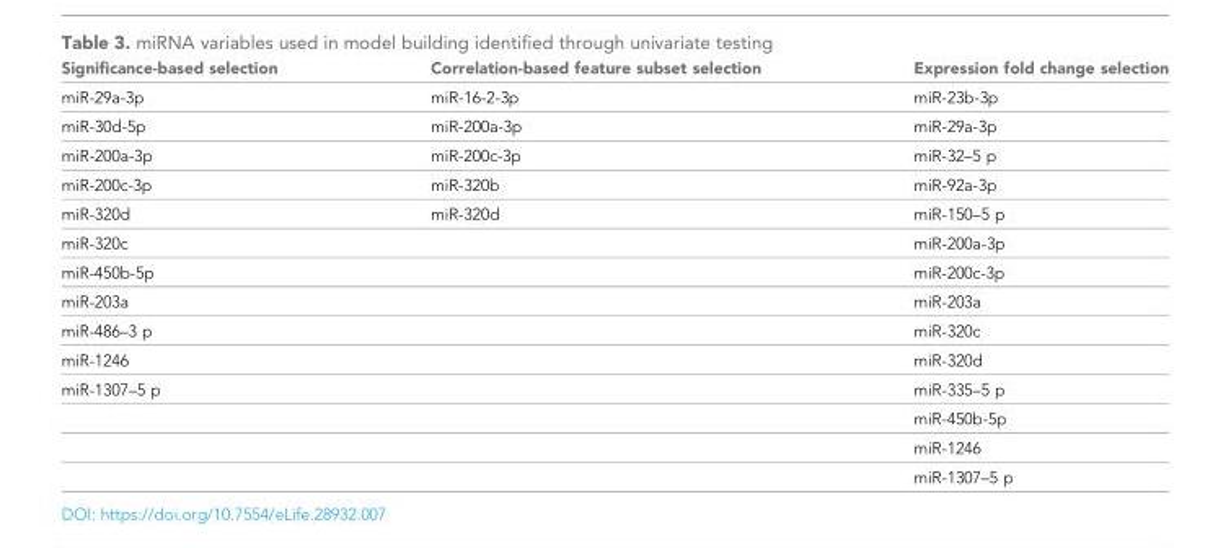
<table><thead><tr><td>Significance-based selection</td><td>Correlation-based feature subset selection</td><td>Expression fold change selection</td></tr></thead><tbody><tr><td>miR-29a-3p</td><td>miR-16-2-3p</td><td>miR-23b-3p</td></tr><tr><td>miR-30d-5p</td><td>miR-200a-3p</td><td>miR-29a-3p</td></tr><tr><td>miR-200a-3p</td><td>miR-200c-3p</td><td>miR-32–5 p</td></tr><tr><td>miR-200c-3p</td><td>miR-320b</td><td>miR-92a-3p</td></tr><tr><td>miR-320d</td><td>miR-320d</td><td>miR-150–5 p</td></tr><tr><td>miR-320c</td><td></td><td>miR-200a-3p</td></tr><tr><td>miR-450b-5p</td><td></td><td>miR-200c-3p</td></tr><tr><td>miR-203a</td><td></td><td>miR-203a</td></tr><tr><td>miR-486–3 p</td><td></td><td>miR-320c</td></tr><tr><td>miR-1246</td><td></td><td>miR-320d</td></tr><tr><td rowspan="4">miR-1307–5 p</td><td></td><td>miR-335–5 p</td></tr><tr><td></td><td>miR-450b-5p</td></tr><tr><td></td><td>miR-1246</td></tr><tr><td></td><td>miR-1307–5 p</td></tr></tbody></table>